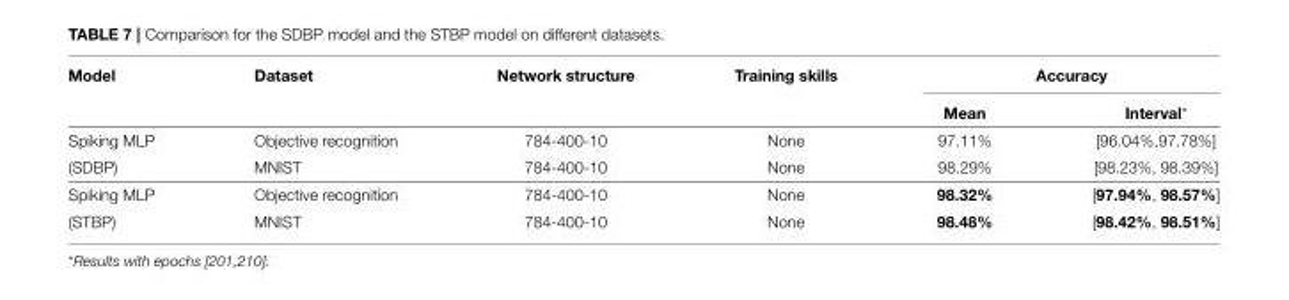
<table><thead><tr><td rowspan="2">Model</td><td rowspan="2">Dataset</td><td rowspan="2">Network structure</td><td rowspan="2">Training skills</td><td colspan="2">Accuracy</td></tr><tr><td>Mean</td><td>Interval*</td></tr></thead><tbody><tr><td>Spiking MLP</td><td>Objective recognition</td><td>784-400-10</td><td>None</td><td>97.11%</td><td>[96.04%,97.78%]</td></tr><tr><td>(SDBP)</td><td>MNIST</td><td>784-400-10</td><td>None</td><td>98.29%</td><td>[98.23%, 98.39%]</td></tr><tr><td>Spiking MLP</td><td>Objective recognition</td><td>784-400-10</td><td>None</td><td>98.32%</td><td>[97.94%, 98.57%]</td></tr><tr><td>(STBP)</td><td>MNIST</td><td>784-400-10</td><td>None</td><td>98.48%</td><td>[98.42%, 98.51%]</td></tr></tbody></table>